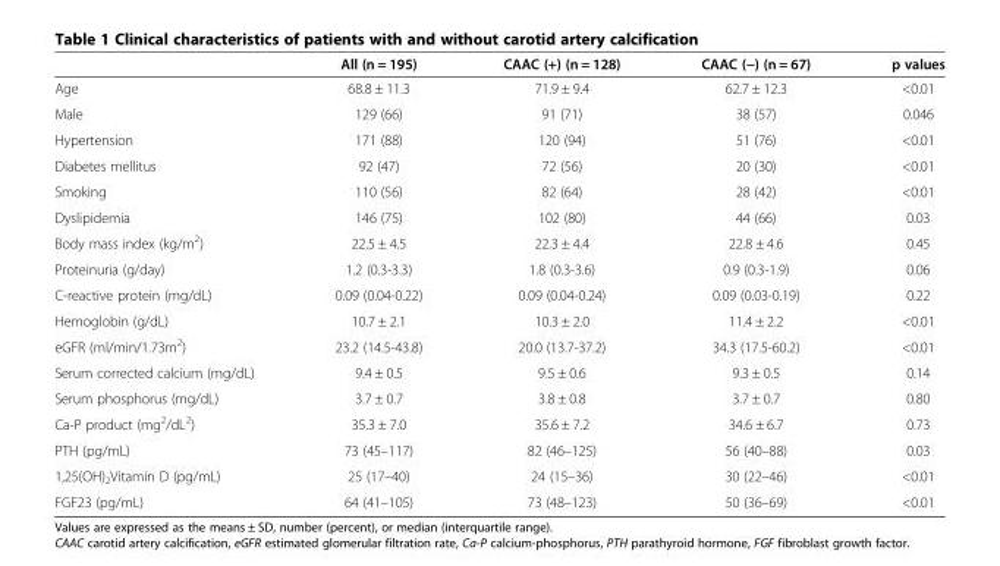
<table><thead><tr><td></td><td>All (n = 195)</td><td>CAAC (+) (n = 128)</td><td>CAAC (−) (n = 67)</td><td>p values</td></tr></thead><tbody><tr><td>Age</td><td>68.8 ± 11.3</td><td>71.9 ± 9.4</td><td>62.7 ± 12.3</td><td>&lt;0.01</td></tr><tr><td>Male</td><td>129 (66)</td><td>91 (71)</td><td>38 (57)</td><td>0.046</td></tr><tr><td>Hypertension</td><td>171 (88)</td><td>120 (94)</td><td>51 (76)</td><td>&lt;0.01</td></tr><tr><td>Diabetes mellitus</td><td>92 (47)</td><td>72 (56)</td><td>20 (30)</td><td>&lt;0.01</td></tr><tr><td>Smoking</td><td>110 (56)</td><td>82 (64)</td><td>28 (42)</td><td>&lt;0.01</td></tr><tr><td>Dyslipidemia</td><td>146 (75)</td><td>102 (80)</td><td>44 (66)</td><td>0.03</td></tr><tr><td>Body mass index (kg/m<sup>2</sup>)</td><td>22.5 ± 4.5</td><td>22.3 ± 4.4</td><td>22.8 ± 4.6</td><td>0.45</td></tr><tr><td>Proteinuria (g/day)</td><td>1.2 (0.3-3.3)</td><td>1.8 (0.3-3.6)</td><td>0.9 (0.3-1.9)</td><td>0.06</td></tr><tr><td>C-reactive protein (mg/dL)</td><td>0.09 (0.04-0.22)</td><td>0.09 (0.04-0.24)</td><td>0.09 (0.03-0.19)</td><td>0.22</td></tr><tr><td>Hemoglobin (g/dL)</td><td>10.7 ± 2.1</td><td>10.3 ± 2.0</td><td>11.4 ± 2.2</td><td>&lt;0.01</td></tr><tr><td>eGFR (ml/min/1.73m<sup>2</sup>)</td><td>23.2 (14.5-43.8)</td><td>20.0 (13.7-37.2)</td><td>34.3 (17.5-60.2)</td><td>&lt;0.01</td></tr><tr><td>Serum corrected calcium (mg/dL)</td><td>9.4 ± 0.5</td><td>9.5 ± 0.6</td><td>9.3 ± 0.5</td><td>0.14</td></tr><tr><td>Serum phosphorus (mg/dL)</td><td>3.7 ± 0.7</td><td>3.8 ± 0.8</td><td>3.7 ± 0.7</td><td>0.80</td></tr><tr><td>Ca-P product (mg<sup>2</sup>/dL<sup>2</sup>)</td><td>35.3 ± 7.0</td><td>35.6 ± 7.2</td><td>34.6 ± 6.7</td><td>0.73</td></tr><tr><td>PTH (pg/mL)</td><td>73 (45–117)</td><td>82 (46–125)</td><td>56 (40–88)</td><td>0.03</td></tr><tr><td>1,25(OH)<sub>2</sub>Vitamin D (pg/mL)</td><td>25 (17–40)</td><td>24 (15–36)</td><td>30 (22–46)</td><td>&lt;0.01</td></tr><tr><td>FGF23 (pg/mL)</td><td>64 (41–105)</td><td>73 (48–123)</td><td>50 (36–69)</td><td>&lt;0.01</td></tr></tbody></table>